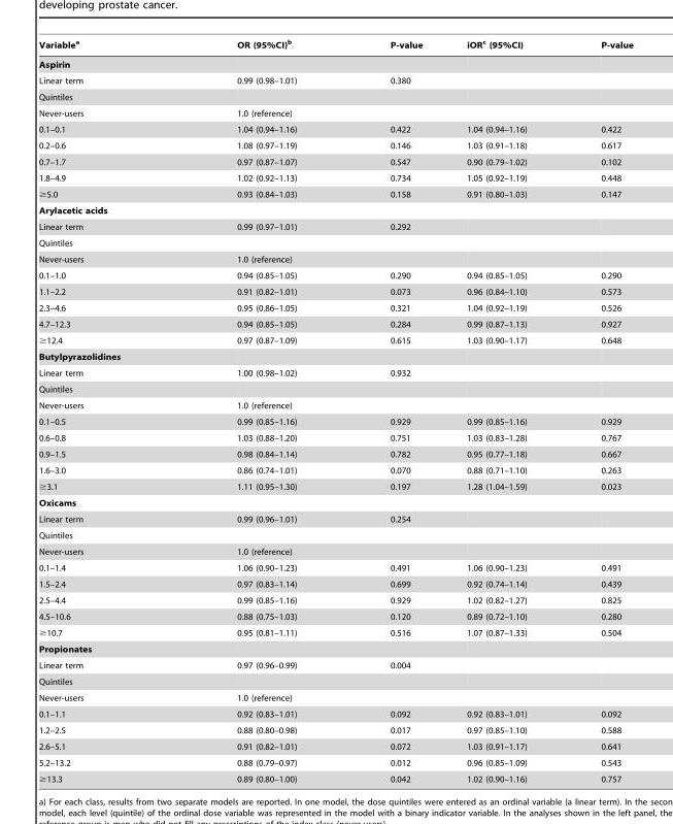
<table><thead><tr><td>Variable<sup>a</sup></td><td>OR (95%CI)<sup>b</sup></td><td>P-value</td><td>iOR<sup>c</sup> (95%CI)</td><td>P-value</td></tr></thead><tbody><tr><td colspan="5">Aspirin</td></tr><tr><td>Linear term</td><td>0.99 (0.98–1.01)</td><td>0.380</td><td></td><td></td></tr><tr><td colspan="5">Quintiles</td></tr><tr><td>Never-users</td><td>1.0 (reference)</td><td></td><td></td><td></td></tr><tr><td>0.1–0.1</td><td>1.04 (0.94–1.16)</td><td>0.422</td><td>1.04 (0.94–1.16)</td><td>0.422</td></tr><tr><td>0.2–0.6</td><td>1.08 (0.97–1.19)</td><td>0.146</td><td>1.03 (0.91–1.18)</td><td>0.617</td></tr><tr><td>0.7–1.7</td><td>0.97 (0.87–1.07)</td><td>0.547</td><td>0.90 (0.79–1.02)</td><td>0.102</td></tr><tr><td>1.8–4.9</td><td>1.02 (0.92–1.13)</td><td>0.734</td><td>1.05 (0.92–1.19)</td><td>0.448</td></tr><tr><td>≥5.0</td><td>0.93 (0.84–1.03)</td><td>0.158</td><td>0.91 (0.80–1.03)</td><td>0.147</td></tr><tr><td colspan="5">Arylacetic acids</td></tr><tr><td>Linear term</td><td>0.99 (0.97–1.01)</td><td>0.292</td><td></td><td></td></tr><tr><td colspan="5">Quintiles</td></tr><tr><td>Never-users</td><td>1.0 (reference)</td><td></td><td></td><td></td></tr><tr><td>0.1–1.0</td><td>0.94 (0.85–1.05)</td><td>0.290</td><td>0.94 (0.85–1.05)</td><td>0.290</td></tr><tr><td>1.1–2.2</td><td>0.91 (0.82–1.01)</td><td>0.073</td><td>0.96 (0.84–1.10)</td><td>0.573</td></tr><tr><td>2.3–4.6</td><td>0.95 (0.86–1.05)</td><td>0.321</td><td>1.04 (0.92–1.19)</td><td>0.526</td></tr><tr><td>4.7–12.3</td><td>0.94 (0.85–1.05)</td><td>0.284</td><td>0.99 (0.87–1.13)</td><td>0.927</td></tr><tr><td>≥12.4</td><td>0.97 (0.87–1.09)</td><td>0.615</td><td>1.03 (0.90–1.17)</td><td>0.648</td></tr><tr><td colspan="5">Butylpyrazolidines</td></tr><tr><td>Linear term</td><td>1.00 (0.98–1.02)</td><td>0.932</td><td></td><td></td></tr><tr><td colspan="5">Quintiles</td></tr><tr><td>Never-users</td><td>1.0 (reference)</td><td></td><td></td><td></td></tr><tr><td>0.1–0.5</td><td>0.99 (0.85–1.16)</td><td>0.929</td><td>0.99 (0.85–1.16)</td><td>0.929</td></tr><tr><td>0.6–0.8</td><td>1.03 (0.88–1.20)</td><td>0.751</td><td>1.03 (0.83–1.28)</td><td>0.767</td></tr><tr><td>0.9–1.5</td><td>0.98 (0.84–1.14)</td><td>0.782</td><td>0.95 (0.77–1.18)</td><td>0.667</td></tr><tr><td>1.6–3.0</td><td>0.86 (0.74–1.01)</td><td>0.070</td><td>0.88 (0.71–1.10)</td><td>0.263</td></tr><tr><td>≥3.1</td><td>1.11 (0.95–1.30)</td><td>0.197</td><td>1.28 (1.04–1.59)</td><td>0.023</td></tr><tr><td colspan="5">Oxicams</td></tr><tr><td>Linear term</td><td>0.99 (0.96–1.01)</td><td>0.254</td><td></td><td></td></tr><tr><td colspan="5">Quintiles</td></tr><tr><td>Never-users</td><td>1.0 (reference)</td><td></td><td></td><td></td></tr><tr><td>0.1–1.4</td><td>1.06 (0.90–1.23)</td><td>0.491</td><td>1.06 (0.90–1.23)</td><td>0.491</td></tr><tr><td>1.5–2.4</td><td>0.97 (0.83–1.14)</td><td>0.699</td><td>0.92 (0.74–1.14)</td><td>0.439</td></tr><tr><td>2.5–4.4</td><td>0.99 (0.85–1.16)</td><td>0.929</td><td>1.02 (0.82–1.27)</td><td>0.825</td></tr><tr><td>4.5–10.6</td><td>0.88 (0.75–1.03)</td><td>0.120</td><td>0.89 (0.72–1.10)</td><td>0.280</td></tr><tr><td>≥10.7</td><td>0.95 (0.81–1.11)</td><td>0.516</td><td>1.07 (0.87–1.33)</td><td>0.504</td></tr><tr><td colspan="5">Propionates</td></tr><tr><td>Linear term</td><td>0.97 (0.96–0.99)</td><td>0.004</td><td></td><td></td></tr><tr><td colspan="5">Quintiles</td></tr><tr><td>Never-users</td><td>1.0 (reference)</td><td></td><td></td><td></td></tr><tr><td>0.1–1.1</td><td>0.92 (0.83–1.01)</td><td>0.092</td><td>0.92 (0.83–1.01)</td><td>0.092</td></tr><tr><td>1.2–2.5</td><td>0.88 (0.80–0.98)</td><td>0.017</td><td>0.97 (0.85–1.10)</td><td>0.588</td></tr><tr><td>2.6–5.1</td><td>0.91 (0.82–1.01)</td><td>0.072</td><td>1.03 (0.91–1.17)</td><td>0.641</td></tr><tr><td>5.2–13.2</td><td>0.88 (0.79–0.97)</td><td>0.012</td><td>0.96 (0.85–1.09)</td><td>0.543</td></tr><tr><td>≥13.3</td><td>0.89 (0.80–1.00)</td><td>0.042</td><td>1.02 (0.90–1.16)</td><td>0.757</td></tr></tbody></table>